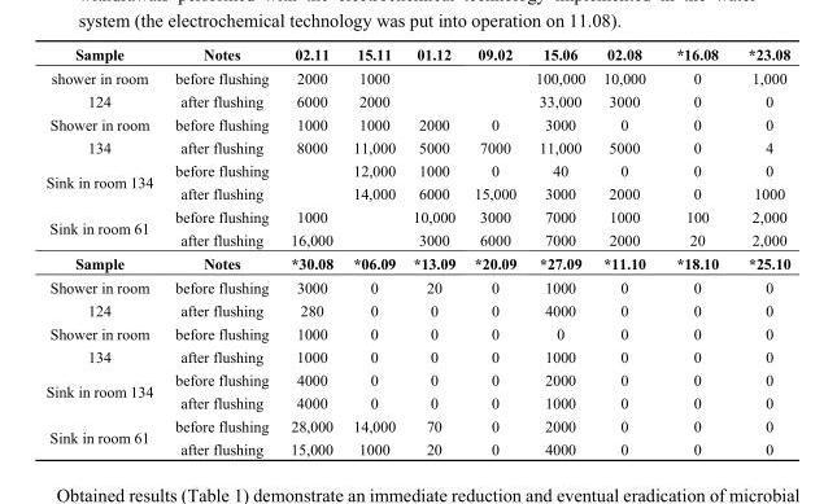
<table><tbody><tr><td>Sample</td><td>Notes</td><td>02.11</td><td>15.11</td><td>01.12</td><td>09.02</td><td>15.06</td><td>02.08</td><td>*16.08</td><td>*23.08</td></tr><tr><td rowspan="2">shower in room 124</td><td>before flushing</td><td>2000</td><td>1000</td><td></td><td></td><td>100,000</td><td>10,000</td><td>0</td><td>1,000</td></tr><tr><td>after flushing</td><td>6000</td><td>2000</td><td></td><td></td><td>33,000</td><td>3000</td><td>0</td><td>0</td></tr><tr><td rowspan="2">Shower in room 134</td><td>before flushing</td><td>1000</td><td>1000</td><td>2000</td><td>0</td><td>3000</td><td>0</td><td>0</td><td>0</td></tr><tr><td>after flushing</td><td>8000</td><td>11,000</td><td>5000</td><td>7000</td><td>11,000</td><td>5000</td><td>0</td><td>4</td></tr><tr><td rowspan="2">Sink in room 134</td><td>before flushing</td><td></td><td>12,000</td><td>1000</td><td>0</td><td>40</td><td>0</td><td>0</td><td>0</td></tr><tr><td>after flushing</td><td></td><td>14,000</td><td>6000</td><td>15,000</td><td>3000</td><td>2000</td><td>0</td><td>1000</td></tr><tr><td rowspan="2">Sink in room 61</td><td>before flushing</td><td>1000</td><td></td><td>10,000</td><td>3000</td><td>7000</td><td>1000</td><td>100</td><td>2,000</td></tr><tr><td>after flushing</td><td>16,000</td><td></td><td>3000</td><td>6000</td><td>7000</td><td>2000</td><td>20</td><td>2,000</td></tr><tr><td>Sample</td><td>Notes</td><td>*30.08</td><td>*06.09</td><td>*13.09</td><td>*20.09</td><td>*27.09</td><td>*11.10</td><td>*18.10</td><td>*25.10</td></tr><tr><td rowspan="2">Shower in room 124</td><td>before flushing</td><td>3000</td><td>0</td><td>20</td><td>0</td><td>1000</td><td>0</td><td>0</td><td>0</td></tr><tr><td>after flushing</td><td>280</td><td>0</td><td>0</td><td>0</td><td>4000</td><td>0</td><td>0</td><td>0</td></tr><tr><td rowspan="2">Shower in room 134</td><td>before flushing</td><td>1000</td><td>0</td><td>0</td><td>0</td><td>0</td><td>0</td><td>0</td><td>0</td></tr><tr><td>after flushing</td><td>1000</td><td>0</td><td>0</td><td>0</td><td>1000</td><td>0</td><td>0</td><td>0</td></tr><tr><td rowspan="2">Sink in room 134</td><td>before flushing</td><td>4000</td><td>0</td><td>0</td><td>0</td><td>2000</td><td>0</td><td>0</td><td>0</td></tr><tr><td>after flushing</td><td>4000</td><td>0</td><td>0</td><td>0</td><td>1000</td><td>0</td><td>0</td><td>0</td></tr><tr><td rowspan="2">Sink in room 61</td><td>before flushing</td><td>28,000</td><td>14,000</td><td>70</td><td>0</td><td>2000</td><td>0</td><td>0</td><td>0</td></tr><tr><td>after flushing</td><td>15,000</td><td>1000</td><td>20</td><td>0</td><td>4000</td><td>0</td><td>0</td><td>0</td></tr></tbody></table>